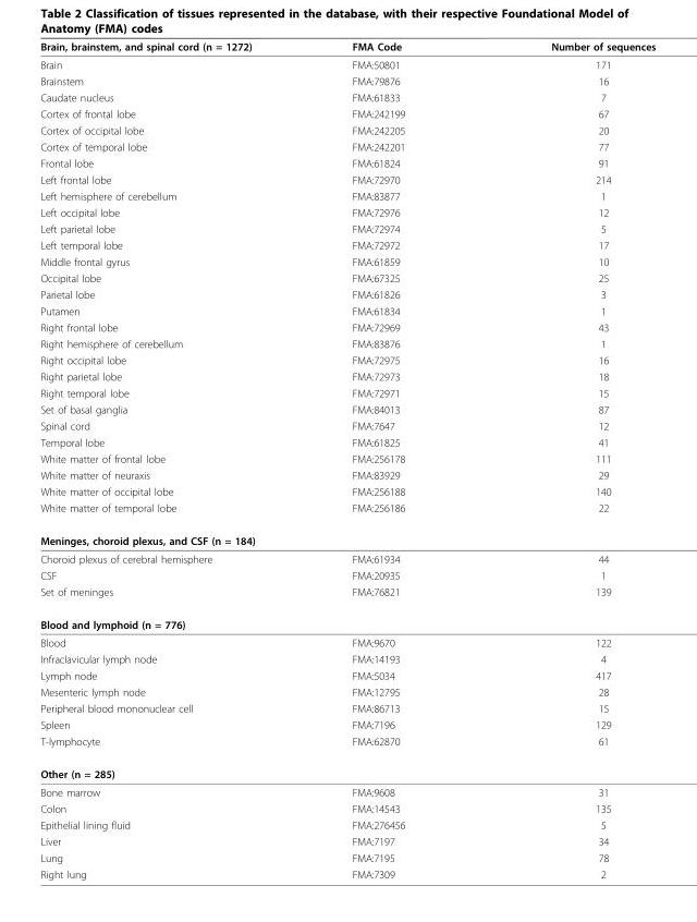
<table><thead><tr><td>Brain, brainstem, and spinal cord (n = 1272)</td><td>FMA Code</td><td>Number of sequences</td></tr></thead><tbody><tr><td>Brain</td><td>FMA:50801</td><td>171</td></tr><tr><td>Brainstem</td><td>FMA:79876</td><td>16</td></tr><tr><td>Caudate nucleus</td><td>FMA:61833</td><td>7</td></tr><tr><td>Cortex of frontal lobe</td><td>FMA:242199</td><td>67</td></tr><tr><td>Cortex of occipital lobe</td><td>FMA:242205</td><td>20</td></tr><tr><td>Cortex of temporal lobe</td><td>FMA:242201</td><td>77</td></tr><tr><td>Frontal lobe</td><td>FMA:61824</td><td>91</td></tr><tr><td>Left frontal lobe</td><td>FMA:72970</td><td>214</td></tr><tr><td>Left hemisphere of cerebellum</td><td>FMA:83877</td><td>1</td></tr><tr><td>Left occipital lobe</td><td>FMA:72976</td><td>12</td></tr><tr><td>Left parietal lobe</td><td>FMA:72974</td><td>5</td></tr><tr><td>Left temporal lobe</td><td>FMA:72972</td><td>17</td></tr><tr><td>Middle frontal gyrus</td><td>FMA:61859</td><td>10</td></tr><tr><td>Occipital lobe</td><td>FMA:67325</td><td>25</td></tr><tr><td>Parietal lobe</td><td>FMA:61826</td><td>3</td></tr><tr><td>Putamen</td><td>FMA:61834</td><td>1</td></tr><tr><td>Right frontal lobe</td><td>FMA:72969</td><td>43</td></tr><tr><td>Right hemisphere of cerebellum</td><td>FMA:83876</td><td>1</td></tr><tr><td>Right occipital lobe</td><td>FMA:72975</td><td>16</td></tr><tr><td>Right parietal lobe</td><td>FMA:72973</td><td>18</td></tr><tr><td>Right temporal lobe</td><td>FMA:72971</td><td>15</td></tr><tr><td>Set of basal ganglia</td><td>FMA:84013</td><td>87</td></tr><tr><td>Spinal cord</td><td>FMA:7647</td><td>12</td></tr><tr><td>Temporal lobe</td><td>FMA:61825</td><td>41</td></tr><tr><td>White matter of frontal lobe</td><td>FMA:256178</td><td>111</td></tr><tr><td>White matter of neuraxis</td><td>FMA:83929</td><td>29</td></tr><tr><td>White matter of occipital lobe</td><td>FMA:256188</td><td>140</td></tr><tr><td>White matter of temporal lobe</td><td>FMA:256186</td><td>22</td></tr><tr><td colspan="3">Meninges, choroid plexus, and CSF (n = 184)</td></tr><tr><td>Choroid plexus of cerebral hemisphere</td><td>FMA:61934</td><td>44</td></tr><tr><td>CSF</td><td>FMA:20935</td><td>1</td></tr><tr><td>Set of meninges</td><td>FMA:76821</td><td>139</td></tr><tr><td colspan="3">Blood and lymphoid (n = 776)</td></tr><tr><td>Blood</td><td>FMA:9670</td><td>122</td></tr><tr><td>Infraclavicular lymph node</td><td>FMA:14193</td><td>4</td></tr><tr><td>Lymph node</td><td>FMA:5034</td><td>417</td></tr><tr><td>Mesenteric lymph node</td><td>FMA:12795</td><td>28</td></tr><tr><td>Peripheral blood mononuclear cell</td><td>FMA:86713</td><td>15</td></tr><tr><td>Spleen</td><td>FMA:7196</td><td>129</td></tr><tr><td>T-lymphocyte</td><td>FMA:62870</td><td>61</td></tr><tr><td colspan="3">Other (n = 285)</td></tr><tr><td>Bone marrow</td><td>FMA:9608</td><td>31</td></tr><tr><td>Colon</td><td>FMA:14543</td><td>135</td></tr><tr><td>Epithelial lining fluid</td><td>FMA:276456</td><td>5</td></tr><tr><td>Liver</td><td>FMA:7197</td><td>34</td></tr><tr><td>Lung</td><td>FMA:7195</td><td>78</td></tr><tr><td>Right lung</td><td>FMA:7309</td><td>2</td></tr></tbody></table>